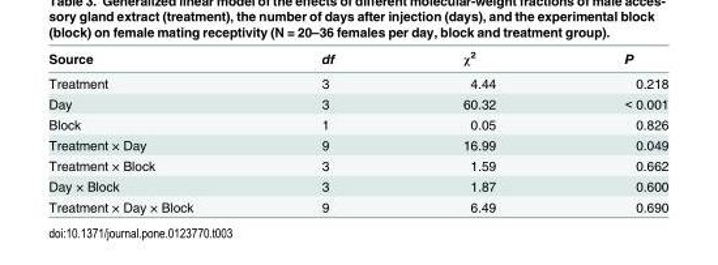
<table><thead><tr><td>Source</td><td>df</td><td>χ<sup>2</sup></td><td>P</td></tr></thead><tbody><tr><td>Treatment</td><td>3</td><td>4.44</td><td>0.218</td></tr><tr><td>Day</td><td>3</td><td>60.32</td><td>&lt; 0.001</td></tr><tr><td>Block</td><td>1</td><td>0.05</td><td>0.826</td></tr><tr><td>Treatment × Day</td><td>9</td><td>16.99</td><td>0.049</td></tr><tr><td>Treatment × Block</td><td>3</td><td>1.59</td><td>0.662</td></tr><tr><td>Day × Block</td><td>3</td><td>1.87</td><td>0.600</td></tr><tr><td>Treatment × Day × Block</td><td>9</td><td>6.49</td><td>0.690</td></tr></tbody></table>